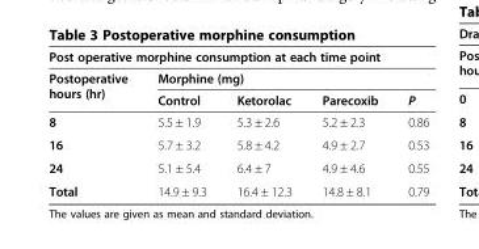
<table><thead><tr><td colspan="5">Post operative morphine consumption at each time point</td></tr><tr><td rowspan="2">Postoperative hours (hr)</td><td colspan="4">Morphine (mg)</td></tr><tr><td>Control</td><td>Ketorolac</td><td>Parecoxib</td><td>P</td></tr></thead><tbody><tr><td>8</td><td>5.5 ± 1.9</td><td>5.3 ± 2.6</td><td>5.2 ± 2.3</td><td>0.86</td></tr><tr><td>16</td><td>5.7 ± 3.2</td><td>5.8 ± 4.2</td><td>4.9 ± 2.7</td><td>0.53</td></tr><tr><td>24</td><td>5.1 ± 5.4</td><td>6.4 ± 7</td><td>4.9 ± 4.6</td><td>0.55</td></tr><tr><td>Total</td><td>14.9 ± 9.3</td><td>16.4 ± 12.3</td><td>14.8 ± 8.1</td><td>0.79</td></tr></tbody></table>